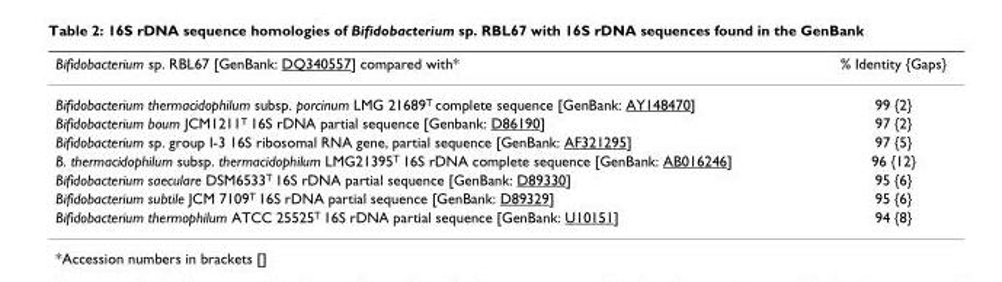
<table><thead><tr><td>Bifidobacterium sp. RBL67 [GenBank: DQ340557] compared with*</td><td>% Identity {Gaps}</td></tr></thead><tbody><tr><td>Bifidobacterium thermacidophilum subsp. porcinum LMG 21689<sup>T</sup> complete sequence [GenBank: AY148470]</td><td>99 {2}</td></tr><tr><td>Bifidobacterium boum JCM1211<sup>T</sup> 16S rDNA partial sequence [Genbank: D86190]</td><td>97 {2}</td></tr><tr><td>Bifidobacterium sp. group I-3 16S ribosomal RNA gene, partial sequence [GenBank: AF321295]</td><td>97 {5}</td></tr><tr><td>B. thermacidophilum subsp. thermacidophilum LMG21395<sup>T</sup> 16S rDNA complete sequence [GenBank: AB016246]</td><td>96 {12}</td></tr><tr><td>Bifidobacterium saeculare DSM6533<sup>T</sup> 16S rDNA partial sequence [GenBank: D89330]</td><td>95 {6}</td></tr><tr><td>Bifidobacterium subtile JCM 7109<sup>T</sup> 16S rDNA partial sequence [GenBank: D89329]</td><td>95 {6}</td></tr><tr><td>Bifidobacterium thermophilum ATCC 25525<sup>T</sup> 16S rDNA partial sequence [GenBank: U10151]</td><td>94 {8}</td></tr></tbody></table>